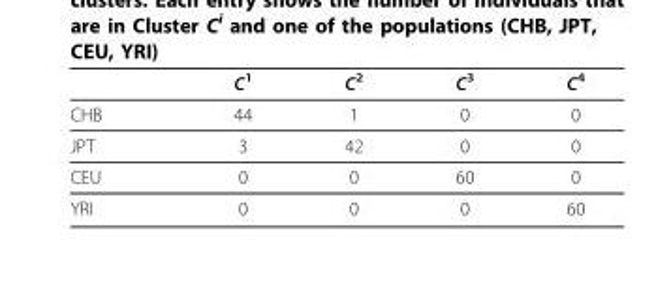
<table><thead><tr><td></td><td>C<sup>1</sup></td><td>C<sup>2</sup></td><td>C<sup>3</sup></td><td>C<sup>4</sup></td></tr></thead><tbody><tr><td>CHB</td><td>44</td><td>1</td><td>0</td><td>0</td></tr><tr><td>JPT</td><td>3</td><td>42</td><td>0</td><td>0</td></tr><tr><td>CEU</td><td>0</td><td>0</td><td>60</td><td>0</td></tr><tr><td>YRI</td><td>0</td><td>0</td><td>0</td><td>60</td></tr></tbody></table>